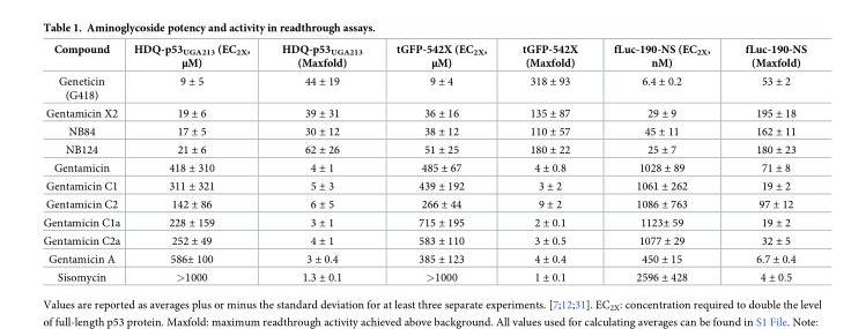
<table><thead><tr><td>Compound</td><td>HDQ-p53<sub>UGA213</sub> (EC<sub>2X</sub>, μM)</td><td>HDQ-p53<sub>UGA213</sub> (Maxfold)</td><td>tGFP-542X (EC<sub>2X</sub>, μM)</td><td>tGFP-542X (Maxfold)</td><td>fLuc-190-NS (EC<sub>2X</sub>, nM)</td><td>fLuc-190-NS (Maxfold)</td></tr></thead><tbody><tr><td>Geneticin (G418)</td><td>9 ± 5</td><td>44 ± 19</td><td>9 ± 4</td><td>318 ± 93</td><td>6.4 ± 0.2</td><td>53 ± 2</td></tr><tr><td>Gentamicin X2</td><td>19 ± 6</td><td>39 ± 31</td><td>36 ± 16</td><td>135 ± 87</td><td>29 ± 9</td><td>195 ± 18</td></tr><tr><td>NB84</td><td>17 ± 5</td><td>30 ± 12</td><td>38 ± 12</td><td>110 ± 57</td><td>45 ± 11</td><td>162 ± 11</td></tr><tr><td>NB124</td><td>21 ± 6</td><td>62 ± 26</td><td>51 ± 25</td><td>180 ± 22</td><td>25 ± 7</td><td>180 ± 23</td></tr><tr><td>Gentamicin</td><td>418 ± 310</td><td>4 ± 1</td><td>485 ± 67</td><td>4 ± 0.8</td><td>1028 ± 89</td><td>71 ± 8</td></tr><tr><td>Gentamicin C1</td><td>311 ± 321</td><td>5 ± 3</td><td>439 ± 192</td><td>3 ± 2</td><td>1061 ± 262</td><td>19 ± 2</td></tr><tr><td>Gentamicin C2</td><td>142 ± 86</td><td>6 ± 5</td><td>266 ± 44</td><td>9 ± 2</td><td>1086 ± 763</td><td>97 ± 12</td></tr><tr><td>Gentamicin C1a</td><td>228 ± 159</td><td>3 ± 1</td><td>715 ± 195</td><td>2 ± 0.1</td><td>1123± 59</td><td>19 ± 2</td></tr><tr><td>Gentamicin C2a</td><td>252 ± 49</td><td>4 ± 1</td><td>583 ± 110</td><td>3 ± 0.5</td><td>1077 ± 29</td><td>32 ± 5</td></tr><tr><td>Gentamicin A</td><td>586± 100</td><td>3 ± 0.4</td><td>385 ± 123</td><td>4 ± 0.4</td><td>450 ± 15</td><td>6.7 ± 0.4</td></tr><tr><td>Sisomycin</td><td>&gt;1000</td><td>1.3 ± 0.1</td><td>&gt;1000</td><td>1 ± 0.1</td><td>2596 ± 428</td><td>4 ± 0.5</td></tr></tbody></table>